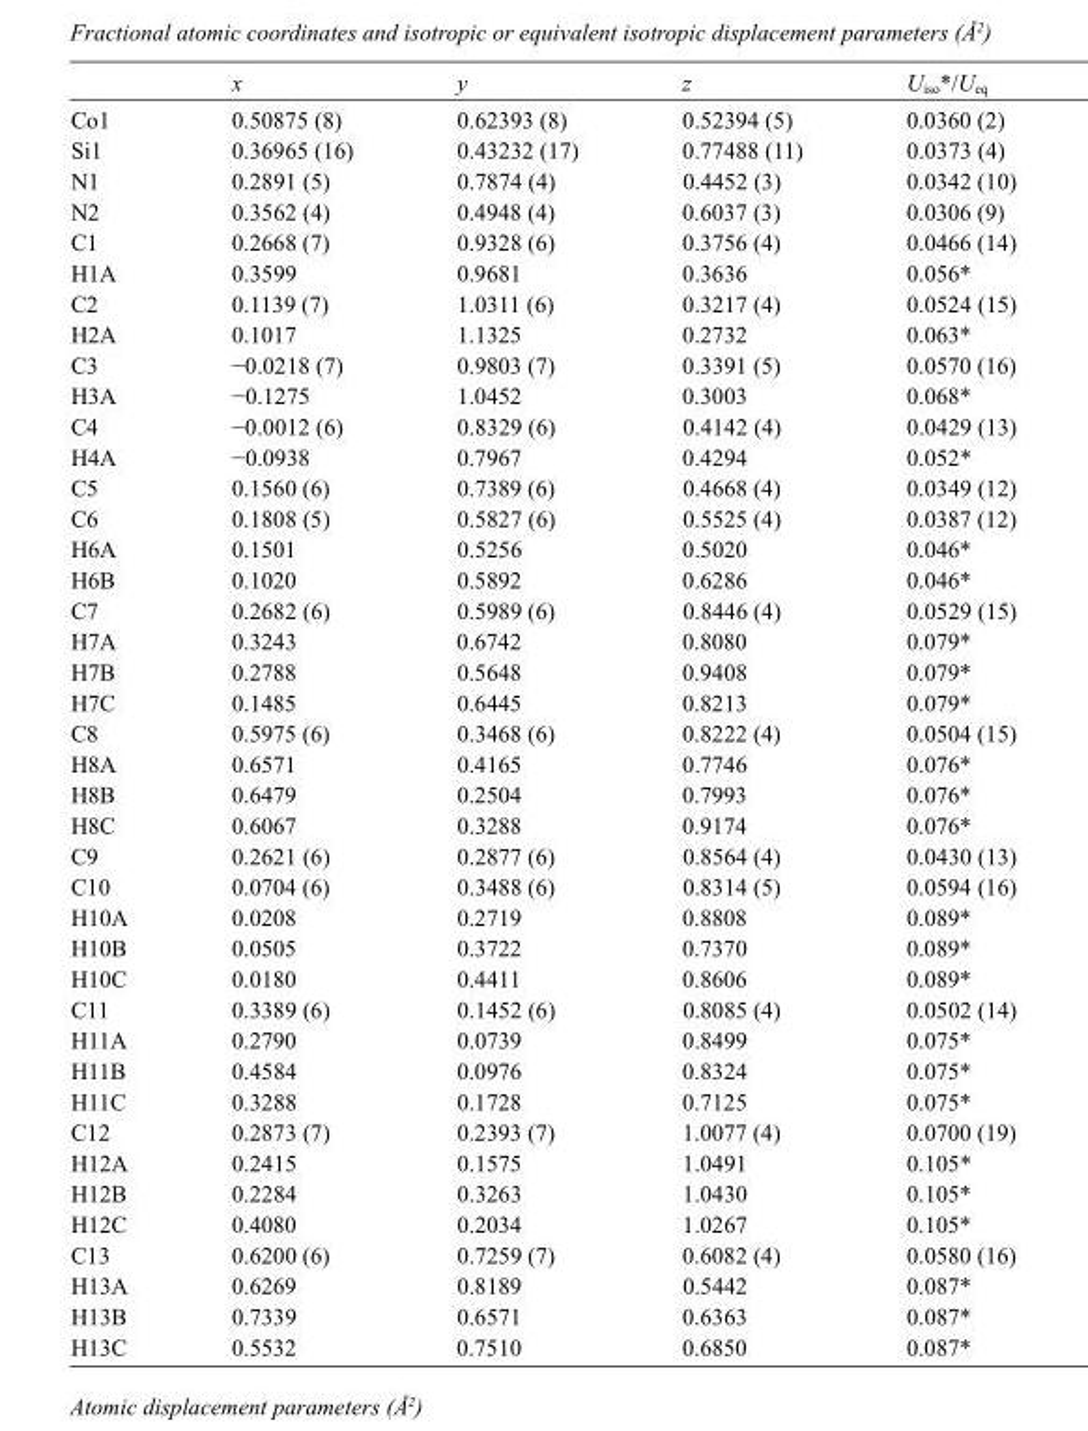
<table><thead><tr><td></td><td>x</td><td>y</td><td>z</td><td>U<sub>iso</sub>*/U<sub>eq</sub></td></tr></thead><tbody><tr><td>Co1</td><td>0.50875 (8)</td><td>0.62393 (8)</td><td>0.52394 (5)</td><td>0.0360 (2)</td></tr><tr><td>Si1</td><td>0.36965 (16)</td><td>0.43232 (17)</td><td>0.77488 (11)</td><td>0.0373 (4)</td></tr><tr><td>N1</td><td>0.2891 (5)</td><td>0.7874 (4)</td><td>0.4452 (3)</td><td>0.0342 (10)</td></tr><tr><td>N2</td><td>0.3562 (4)</td><td>0.4948 (4)</td><td>0.6037 (3)</td><td>0.0306 (9)</td></tr><tr><td>C1</td><td>0.2668 (7)</td><td>0.9328 (6)</td><td>0.3756 (4)</td><td>0.0466 (14)</td></tr><tr><td>H1A</td><td>0.3599</td><td>0.9681</td><td>0.3636</td><td>0.056*</td></tr><tr><td>C2</td><td>0.1139 (7)</td><td>1.0311 (6)</td><td>0.3217 (4)</td><td>0.0524 (15)</td></tr><tr><td>H2A</td><td>0.1017</td><td>1.1325</td><td>0.2732</td><td>0.063*</td></tr><tr><td>C3</td><td>−0.0218 (7)</td><td>0.9803 (7)</td><td>0.3391 (5)</td><td>0.0570 (16)</td></tr><tr><td>H3A</td><td>−0.1275</td><td>1.0452</td><td>0.3003</td><td>0.068*</td></tr><tr><td>C4</td><td>−0.0012 (6)</td><td>0.8329 (6)</td><td>0.4142 (4)</td><td>0.0429 (13)</td></tr><tr><td>H4A</td><td>−0.0938</td><td>0.7967</td><td>0.4294</td><td>0.052*</td></tr><tr><td>C5</td><td>0.1560 (6)</td><td>0.7389 (6)</td><td>0.4668 (4)</td><td>0.0349 (12)</td></tr><tr><td>C6</td><td>0.1808 (5)</td><td>0.5827 (6)</td><td>0.5525 (4)</td><td>0.0387 (12)</td></tr><tr><td>H6A</td><td>0.1501</td><td>0.5256</td><td>0.5020</td><td>0.046*</td></tr><tr><td>H6B</td><td>0.1020</td><td>0.5892</td><td>0.6286</td><td>0.046*</td></tr><tr><td>C7</td><td>0.2682 (6)</td><td>0.5989 (6)</td><td>0.8446 (4)</td><td>0.0529 (15)</td></tr><tr><td>H7A</td><td>0.3243</td><td>0.6742</td><td>0.8080</td><td>0.079*</td></tr><tr><td>H7B</td><td>0.2788</td><td>0.5648</td><td>0.9408</td><td>0.079*</td></tr><tr><td>H7C</td><td>0.1485</td><td>0.6445</td><td>0.8213</td><td>0.079*</td></tr><tr><td>C8</td><td>0.5975 (6)</td><td>0.3468 (6)</td><td>0.8222 (4)</td><td>0.0504 (15)</td></tr><tr><td>H8A</td><td>0.6571</td><td>0.4165</td><td>0.7746</td><td>0.076*</td></tr><tr><td>H8B</td><td>0.6479</td><td>0.2504</td><td>0.7993</td><td>0.076*</td></tr><tr><td>H8C</td><td>0.6067</td><td>0.3288</td><td>0.9174</td><td>0.076*</td></tr><tr><td>C9</td><td>0.2621 (6)</td><td>0.2877 (6)</td><td>0.8564 (4)</td><td>0.0430 (13)</td></tr><tr><td>C10</td><td>0.0704 (6)</td><td>0.3488 (6)</td><td>0.8314 (5)</td><td>0.0594 (16)</td></tr><tr><td>H10A</td><td>0.0208</td><td>0.2719</td><td>0.8808</td><td>0.089*</td></tr><tr><td>H10B</td><td>0.0505</td><td>0.3722</td><td>0.7370</td><td>0.089*</td></tr><tr><td>H10C</td><td>0.0180</td><td>0.4411</td><td>0.8606</td><td>0.089*</td></tr><tr><td>C11</td><td>0.3389 (6)</td><td>0.1452 (6)</td><td>0.8085 (4)</td><td>0.0502 (14)</td></tr><tr><td>H11A</td><td>0.2790</td><td>0.0739</td><td>0.8499</td><td>0.075*</td></tr><tr><td>H11B</td><td>0.4584</td><td>0.0976</td><td>0.8324</td><td>0.075*</td></tr><tr><td>H11C</td><td>0.3288</td><td>0.1728</td><td>0.7125</td><td>0.075*</td></tr><tr><td>C12</td><td>0.2873 (7)</td><td>0.2393 (7)</td><td>1.0077 (4)</td><td>0.0700 (19)</td></tr><tr><td>H12A</td><td>0.2415</td><td>0.1575</td><td>1.0491</td><td>0.105*</td></tr><tr><td>H12B</td><td>0.2284</td><td>0.3263</td><td>1.0430</td><td>0.105*</td></tr><tr><td>H12C</td><td>0.4080</td><td>0.2034</td><td>1.0267</td><td>0.105*</td></tr><tr><td>C13</td><td>0.6200 (6)</td><td>0.7259 (7)</td><td>0.6082 (4)</td><td>0.0580 (16)</td></tr><tr><td>H13A</td><td>0.6269</td><td>0.8189</td><td>0.5442</td><td>0.087*</td></tr><tr><td>H13B</td><td>0.7339</td><td>0.6571</td><td>0.6363</td><td>0.087*</td></tr><tr><td>H13C</td><td>0.5532</td><td>0.7510</td><td>0.6850</td><td>0.087*</td></tr></tbody></table>